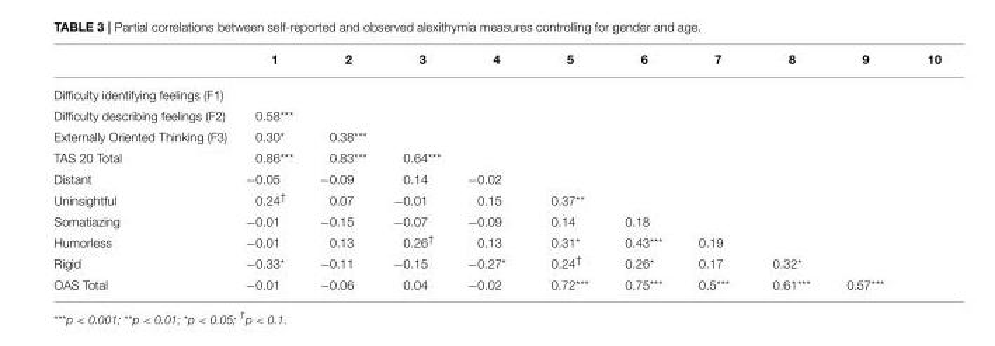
<table><thead><tr><td></td><td>1</td><td>2</td><td>3</td><td>4</td><td>5</td><td>6</td><td>7</td><td>8</td><td>9</td><td>10</td></tr></thead><tbody><tr><td colspan="11">Difficulty identifying feelings (F1)</td></tr><tr><td>Difficulty describing feelings (F2)</td><td>0.58***</td><td></td><td></td><td></td><td></td><td></td><td></td><td></td><td></td><td></td></tr><tr><td>Externally Oriented Thinking (F3)</td><td>0.30*</td><td>0.38***</td><td></td><td></td><td></td><td></td><td></td><td></td><td></td><td></td></tr><tr><td>TAS 20 Total</td><td>0.86***</td><td>0.83***</td><td>0.64***</td><td></td><td></td><td></td><td></td><td></td><td></td><td></td></tr><tr><td>Distant</td><td>−0.05</td><td>−0.09</td><td>0.14</td><td>−0.02</td><td></td><td></td><td></td><td></td><td></td><td></td></tr><tr><td>Uninsightful</td><td>0.24<sup>†</sup></td><td>0.07</td><td>−0.01</td><td>0.15</td><td>0.37**</td><td></td><td></td><td></td><td></td><td></td></tr><tr><td>Somatiazing</td><td>−0.01</td><td>−0.15</td><td>−0.07</td><td>−0.09</td><td>0.14</td><td>0.18</td><td></td><td></td><td></td><td></td></tr><tr><td>Humorless</td><td>−0.01</td><td>0.13</td><td>0.26<sup>†</sup></td><td>0.13</td><td>0.31*</td><td>0.43***</td><td>0.19</td><td></td><td></td><td></td></tr><tr><td>Rigid</td><td>−0.33*</td><td>−0.11</td><td>−0.15</td><td>−0.27*</td><td>0.24<sup>†</sup></td><td>0.26*</td><td>0.17</td><td>0.32*</td><td></td><td></td></tr><tr><td>OAS Total</td><td>−0.01</td><td>−0.06</td><td>0.04</td><td>−0.02</td><td>0.72***</td><td>0.75***</td><td>0.5***</td><td>0.61***</td><td>0.57***</td><td></td></tr></tbody></table>